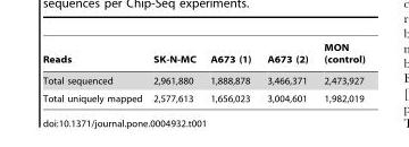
<table><thead><tr><td>Reads</td><td>SK-N-MC</td><td>A673 (1)</td><td>A673 (2)</td><td>MON (control)</td></tr></thead><tbody><tr><td>Total sequenced</td><td>2,961,880</td><td>1,888,878</td><td>3,466,371</td><td>2,473,927</td></tr><tr><td>Total uniquely mapped</td><td>2,577,613</td><td>1,656,023</td><td>3,004,601</td><td>1,982,019</td></tr></tbody></table>